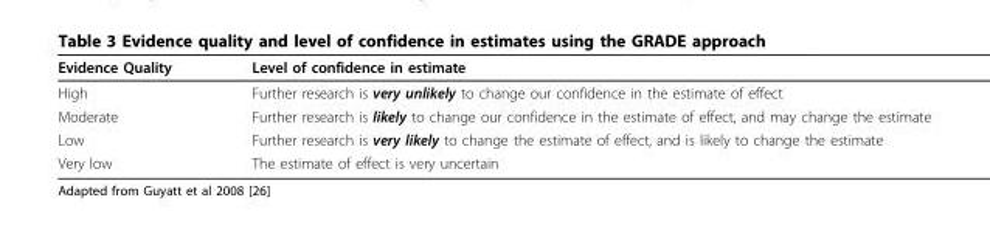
<table><thead><tr><td>Evidence Quality</td><td>Level of confidence in estimate</td></tr></thead><tbody><tr><td>High</td><td>Further research is very unlikely to change our confidence in the estimate of effect</td></tr><tr><td>Moderate</td><td>Further research is likely to change our confidence in the estimate of effect, and may change the estimate</td></tr><tr><td>Low</td><td>Further research is very likely to change the estimate of effect, and is likely to change the estimate</td></tr><tr><td>Very low</td><td>The estimate of effect is very uncertain</td></tr></tbody></table>